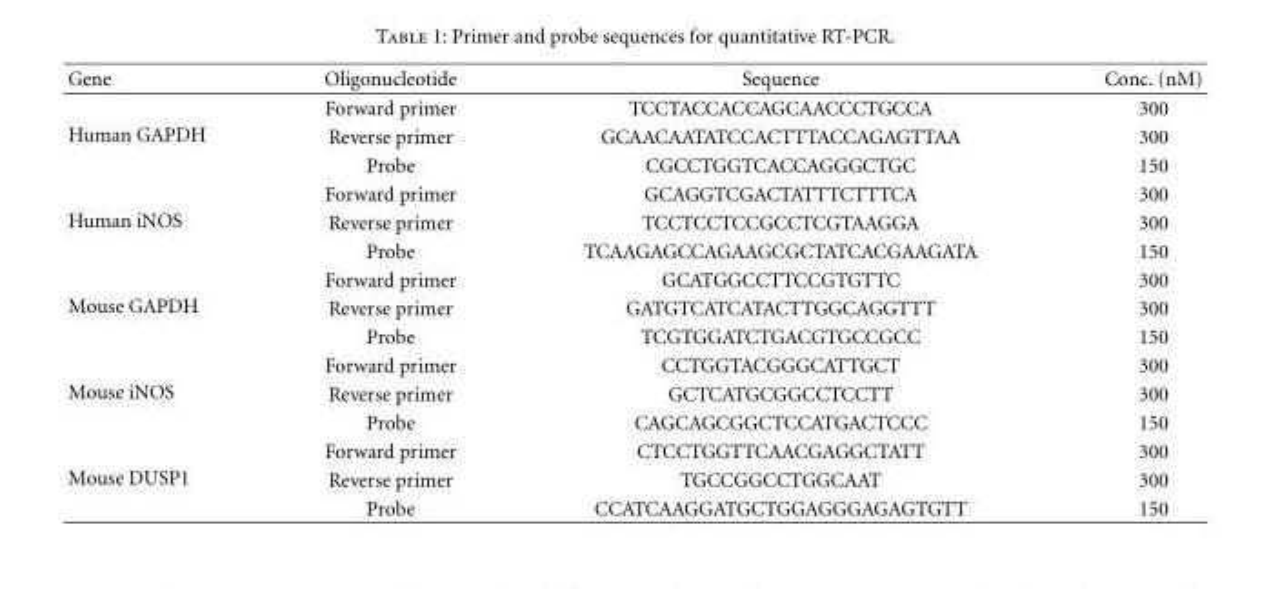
<table><thead><tr><td>Gene</td><td>Oligonucleotide</td><td>Sequence</td><td>Conc. (nM)</td></tr></thead><tbody><tr><td rowspan="3">Human GAPDH</td><td>Forward primer</td><td>TCCTACCACCAGCAACCCTGCCA</td><td>300</td></tr><tr><td>Reverse primer</td><td>GCAACAATATCCACTTTACCAGAGTTAA</td><td>300</td></tr><tr><td>Probe</td><td>CGCCTGGTCACCAGGGCTGC</td><td>150</td></tr><tr><td rowspan="3">Human iNOS</td><td>Forward primer</td><td>GCAGGTCGACTATTTCTTTCA</td><td>300</td></tr><tr><td>Reverse primer</td><td>TCCTCCTCCGCCTCGTAAGGA</td><td>300</td></tr><tr><td>Probe</td><td>TCAAGAGCCAGAAGCGCTATCACGAAGATA</td><td>150</td></tr><tr><td rowspan="3">Mouse GAPDH</td><td>Forward primer</td><td>GCATGGCCTTCCGTGTTC</td><td>300</td></tr><tr><td>Reverse primer</td><td>GATGTCATCATACTTGGCAGGTTT</td><td>300</td></tr><tr><td>Probe</td><td>TCGTGGATCTGACGTGCCGCC</td><td>150</td></tr><tr><td rowspan="3">Mouse iNOS</td><td>Forward primer</td><td>CCTGGTACGGGCATTGCT</td><td>300</td></tr><tr><td>Reverse primer</td><td>GCTCATGCGGCCTCCTT</td><td>300</td></tr><tr><td>Probe</td><td>CAGCAGCGGCTCCATGACTCCC</td><td>150</td></tr><tr><td rowspan="3">Mouse DUSP1</td><td>Forward primer</td><td>CTCCTGGTTCAACGAGGCTATT</td><td>300</td></tr><tr><td>Reverse primer</td><td>TGCCGGCCTGGCAAT</td><td>300</td></tr><tr><td>Probe</td><td>CCATCAAGGATGCTGGAGGGAGAGTGTT</td><td>150</td></tr></tbody></table>